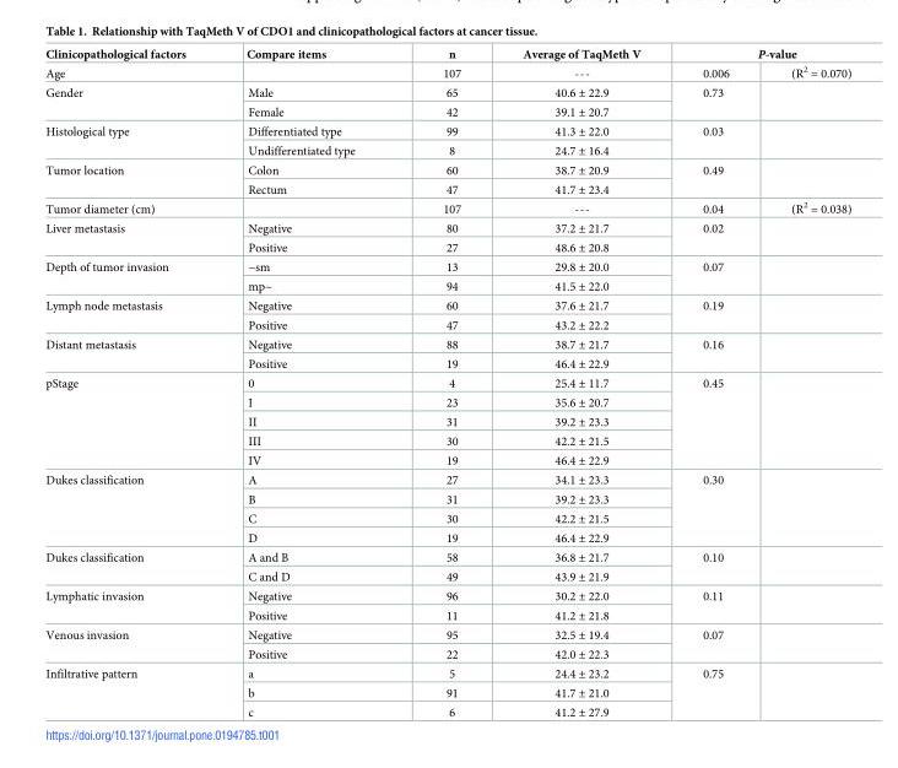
<table><thead><tr><td rowspan="2">Clinicopathological factors Age</td><td rowspan="2">Compare items</td><td rowspan="2">n 107</td><td rowspan="2">Average of TaqMeth V ---</td><td colspan="2">P-value</td></tr><tr><td>0.006</td><td>(R<sup>2</sup> = 0.070)</td></tr></thead><tbody><tr><td rowspan="2">Gender</td><td>Male</td><td>65</td><td>40.6 ± 22.9</td><td rowspan="2">0.73</td><td rowspan="2"></td></tr><tr><td>Female</td><td>42</td><td>39.1 ± 20.7</td></tr><tr><td rowspan="2">Histological type</td><td>Differentiated type</td><td>99</td><td>41.3 ± 22.0</td><td rowspan="2">0.03</td><td rowspan="2"></td></tr><tr><td>Undifferentiated type</td><td>8</td><td>24.7 ± 16.4</td></tr><tr><td rowspan="2">Tumor location</td><td>Colon</td><td>60</td><td>38.7 ± 20.9</td><td rowspan="2">0.49</td><td rowspan="2"></td></tr><tr><td>Rectum</td><td>47</td><td>41.7 ± 23.4</td></tr><tr><td>Tumor diameter (cm)</td><td></td><td>107</td><td>---</td><td>0.04</td><td>(R<sup>2</sup> = 0.038)</td></tr><tr><td rowspan="2">Liver metastasis</td><td>Negative</td><td>80</td><td>37.2 ± 21.7</td><td rowspan="2">0.02</td><td rowspan="2"></td></tr><tr><td>Positive</td><td>27</td><td>48.6 ± 20.8</td></tr><tr><td rowspan="2">Depth of tumor invasion</td><td>~sm</td><td>13</td><td>29.8 ± 20.0</td><td rowspan="2">0.07</td><td rowspan="2"></td></tr><tr><td>mp~</td><td>94</td><td>41.5 ± 22.0</td></tr><tr><td rowspan="2">Lymph node metastasis</td><td>Negative</td><td>60</td><td>37.6 ± 21.7</td><td rowspan="2">0.19</td><td rowspan="2"></td></tr><tr><td>Positive</td><td>47</td><td>43.2 ± 22.2</td></tr><tr><td rowspan="2">Distant metastasis</td><td>Negative</td><td>88</td><td>38.7 ± 21.7</td><td rowspan="2">0.16</td><td rowspan="2"></td></tr><tr><td>Positive</td><td>19</td><td>46.4 ± 22.9</td></tr><tr><td rowspan="5">pStage</td><td>0</td><td>4</td><td>25.4 ± 11.7</td><td rowspan="5">0.45</td><td rowspan="5"></td></tr><tr><td>I</td><td>23</td><td>35.6 ± 20.7</td></tr><tr><td>II</td><td>31</td><td>39.2 ± 23.3</td></tr><tr><td>III</td><td>30</td><td>42.2 ± 21.5</td></tr><tr><td>IV</td><td>19</td><td>46.4 ± 22.9</td></tr><tr><td rowspan="4">Dukes classification</td><td>A</td><td>27</td><td>34.1 ± 23.3</td><td rowspan="4">0.30</td><td rowspan="4"></td></tr><tr><td>B</td><td>31</td><td>39.2 ± 23.3</td></tr><tr><td>C</td><td>30</td><td>42.2 ± 21.5</td></tr><tr><td>D</td><td>19</td><td>46.4 ± 22.9</td></tr><tr><td rowspan="2">Dukes classification</td><td>A and B</td><td>58</td><td>36.8 ± 21.7</td><td rowspan="2">0.10</td><td rowspan="2"></td></tr><tr><td>C and D</td><td>49</td><td>43.9 ± 21.9</td></tr><tr><td rowspan="2">Lymphatic invasion</td><td>Negative</td><td>96</td><td>30.2 ± 22.0</td><td rowspan="2">0.11</td><td rowspan="2"></td></tr><tr><td>Positive</td><td>11</td><td>41.2 ± 21.8</td></tr><tr><td rowspan="2">Venous invasion</td><td>Negative</td><td>95</td><td>32.5 ± 19.4</td><td rowspan="2">0.07</td><td rowspan="2"></td></tr><tr><td>Positive</td><td>22</td><td>42.0 ± 22.3</td></tr><tr><td rowspan="3">Infiltrative pattern</td><td>a</td><td>5</td><td>24.4 ± 23.2</td><td rowspan="3">0.75</td><td rowspan="3"></td></tr><tr><td>b</td><td>91</td><td>41.7 ± 21.0</td></tr><tr><td>c</td><td>6</td><td>41.2 ± 27.9</td></tr></tbody></table>